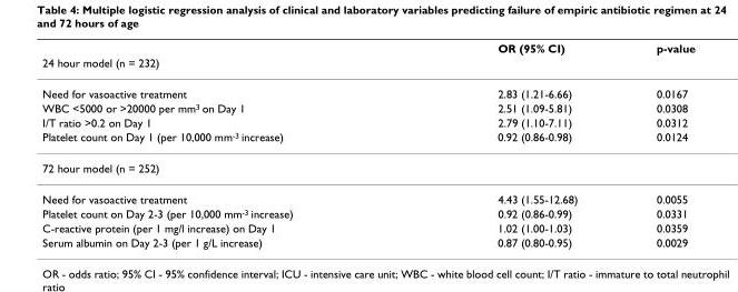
<table><thead><tr><td rowspan="2">24 hour model (n = 232)</td><td rowspan="2">OR (95% CI)</td><td rowspan="2">p-value</td></tr><tr></tr></thead><tbody><tr><td>Need for vasoactive treatment</td><td>2.83 (1.21-6.66)</td><td>0.0167</td></tr><tr><td>WBC &lt;5000 or &gt;20000 per mm<sup>3</sup> on Day 1</td><td>2.51 (1.09-5.81)</td><td>0.0308</td></tr><tr><td>I/T ratio &gt;0.2 on Day 1</td><td>2.79 (1.10-7.11)</td><td>0.0312</td></tr><tr><td>Platelet count on Day 1 (per 10,000 mm<sup>-3</sup> increase)</td><td>0.92 (0.86-0.98)</td><td>0.0124</td></tr><tr><td colspan="3">72 hour model (n = 252)</td></tr><tr><td>Need for vasoactive treatment</td><td>4.43 (1.55-12.68)</td><td>0.0055</td></tr><tr><td>Platelet count on Day 2-3 (per 10,000 mm<sup>-3</sup> increase)</td><td>0.92 (0.86-0.99)</td><td>0.0331</td></tr><tr><td>C-reactive protein (per 1 mg/l increase) on Day 1</td><td>1.02 (1.00-1.03)</td><td>0.0359</td></tr><tr><td>Serum albumin on Day 2-3 (per 1 g/L increase)</td><td>0.87 (0.80-0.95)</td><td>0.0029</td></tr></tbody></table>